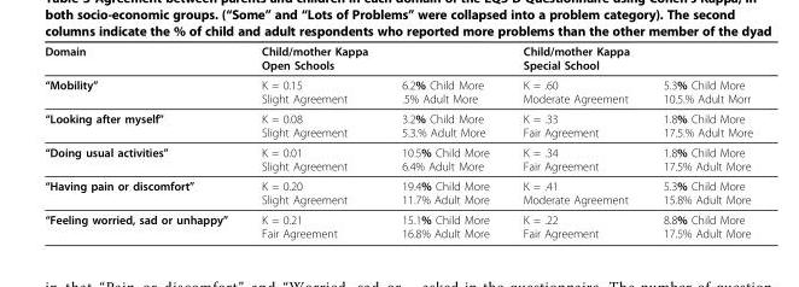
<table><thead><tr><td>Domain</td><td>Child/mother Kappa Open Schools</td><td></td><td>Child/mother Kappa Special School</td><td></td></tr></thead><tbody><tr><td>“Mobility”</td><td>K = 0.15 Slight Agreement</td><td>6.2% Child More .5% Adult More</td><td>K = .60 Moderate Agreement</td><td>5.3% Child More 10.5.% Adult Morr</td></tr><tr><td>“Looking after myself”</td><td>K = 0.08 Slight Agreement</td><td>3.2% Child More 5.3.% Adult More</td><td>K = .33 Fair Agreement</td><td>1.8% Child More 17.5.% Adult More</td></tr><tr><td>“Doing usual activities”</td><td>K = 0.01 Slight Agreement</td><td>10.5% Child More 6.4% Adult More</td><td>K = .34 Fair Agreement</td><td>1.8% Child More 17.5% Adult More</td></tr><tr><td>“Having pain or discomfort”</td><td>K = 0.20 Slight Agreement</td><td>19.4% Child More 11.7% Adult More</td><td>K = .41 Moderate Agreement</td><td>5.3% Child More 15.8% Adult More</td></tr><tr><td>“Feeling worried, sad or unhappy”</td><td>K = 0.21 Fair Agreement</td><td>15.1% Child More 16.8% Adult More</td><td>K = .22 Fair Agreement</td><td>8.8% Child More 17.5% Adult More</td></tr></tbody></table>